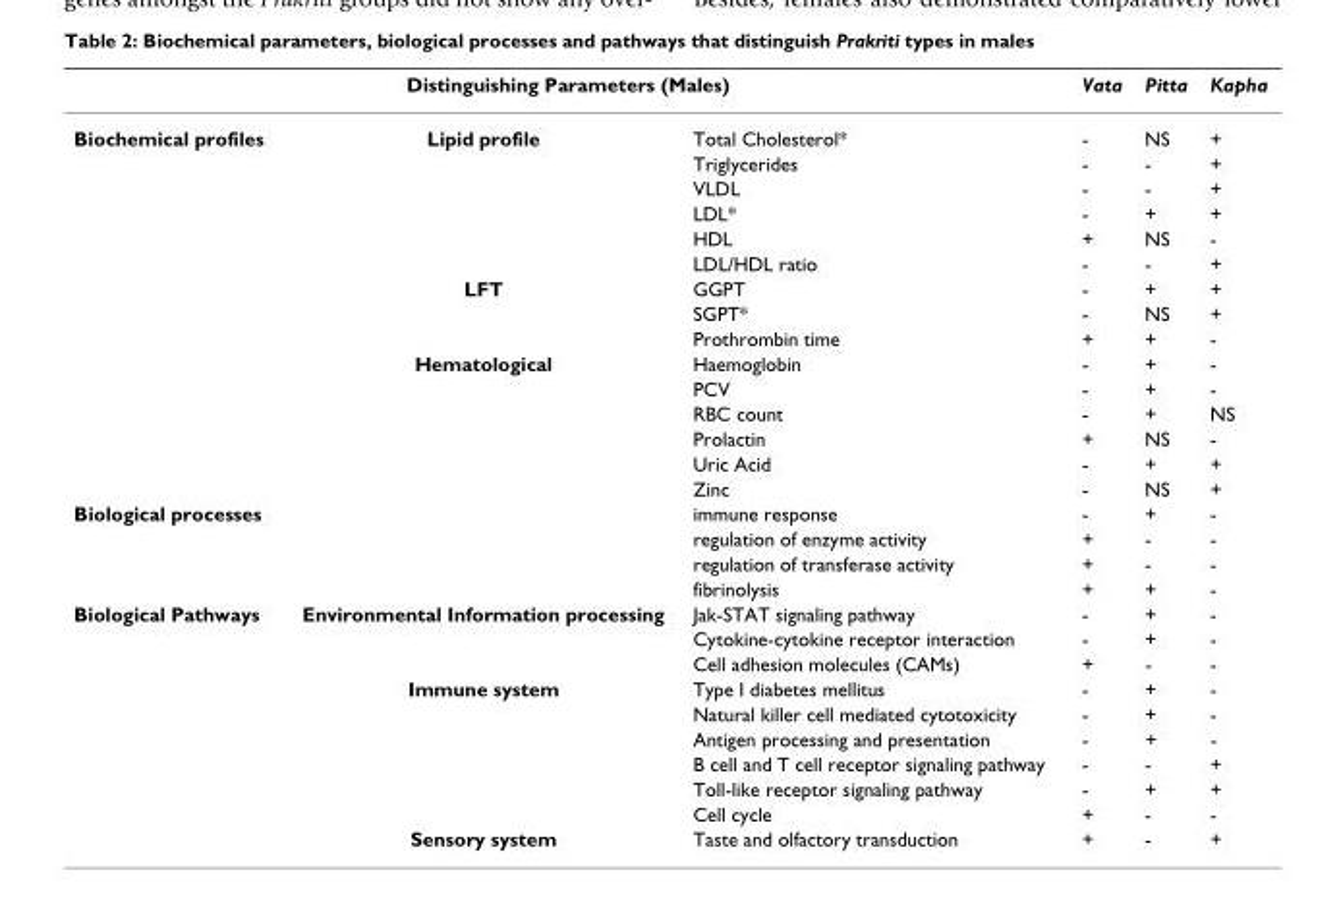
<table><thead><tr><td colspan="3">Distinguishing Parameters (Males)</td><td rowspan="2">Vata -</td><td rowspan="2">Pitta NS</td><td rowspan="2">Kapha +</td></tr><tr><td>Biochemical profiles</td><td>Lipid profile</td><td>Total Cholesterol*</td></tr></thead><tbody><tr><td></td><td></td><td>Triglycerides</td><td>-</td><td>-</td><td>+</td></tr><tr><td></td><td></td><td>VLDL</td><td>-</td><td>-</td><td>+</td></tr><tr><td></td><td></td><td>LDL*</td><td>-</td><td>+</td><td>+</td></tr><tr><td></td><td></td><td>HDL</td><td>+</td><td>NS</td><td>-</td></tr><tr><td></td><td></td><td>LDL/HDL ratio</td><td>-</td><td>-</td><td>+</td></tr><tr><td></td><td>LFT</td><td>GGPT</td><td>-</td><td>+</td><td>+</td></tr><tr><td></td><td></td><td>SGPT*</td><td>-</td><td>NS</td><td>+</td></tr><tr><td></td><td></td><td>Prothrombin time</td><td>+</td><td>+</td><td>-</td></tr><tr><td></td><td>Hematological</td><td>Haemoglobin</td><td>-</td><td>+</td><td>-</td></tr><tr><td></td><td></td><td>PCV</td><td>-</td><td>+</td><td>-</td></tr><tr><td></td><td></td><td>RBC count</td><td>-</td><td>+</td><td>NS</td></tr><tr><td></td><td></td><td>Prolactin</td><td>+</td><td>NS</td><td>-</td></tr><tr><td></td><td></td><td>Uric Acid</td><td>-</td><td>+</td><td>+</td></tr><tr><td></td><td></td><td>Zinc</td><td>-</td><td>NS</td><td>+</td></tr><tr><td rowspan="4">Biological processes</td><td></td><td>immune response</td><td>-</td><td>+</td><td>-</td></tr><tr><td></td><td>regulation of enzyme activity</td><td>+</td><td>-</td><td>-</td></tr><tr><td></td><td>regulation of transferase activity</td><td>+</td><td>-</td><td>-</td></tr><tr><td></td><td>fibrinolysis</td><td>+</td><td>+</td><td>-</td></tr><tr><td rowspan="10">Biological Pathways</td><td>Environmental Information processing</td><td>Jak-STAT signaling pathway</td><td>-</td><td>+</td><td>-</td></tr><tr><td></td><td>Cytokine-cytokine receptor interaction</td><td>-</td><td>+</td><td>-</td></tr><tr><td></td><td>Cell adhesion molecules (CAMs)</td><td>+</td><td>-</td><td>-</td></tr><tr><td>Immune system</td><td>Type I diabetes mellitus</td><td>-</td><td>+</td><td>-</td></tr><tr><td></td><td>Natural killer cell mediated cytotoxicity</td><td>-</td><td>+</td><td>-</td></tr><tr><td></td><td>Antigen processing and presentation</td><td>-</td><td>+</td><td>-</td></tr><tr><td></td><td>B cell and T cell receptor signaling pathway</td><td>-</td><td>-</td><td>+</td></tr><tr><td></td><td>Toll-like receptor signaling pathway</td><td>-</td><td>+</td><td>+</td></tr><tr><td></td><td>Cell cycle</td><td>+</td><td>-</td><td>-</td></tr><tr><td>Sensory system</td><td>Taste and olfactory transduction</td><td>+</td><td>-</td><td>+</td></tr></tbody></table>